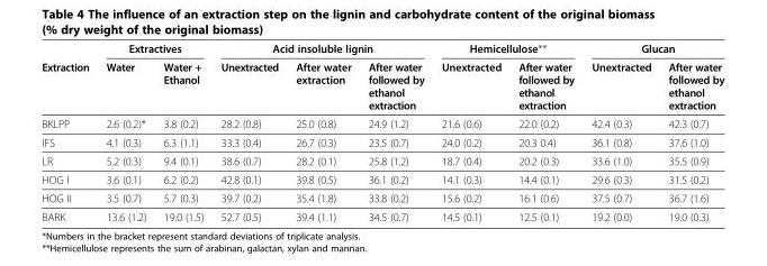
<table><thead><tr><td rowspan="2">Extraction</td><td colspan="2">Extractives</td><td colspan="3">Acid insoluble lignin</td><td colspan="2">Hemicellulose**</td><td colspan="2">Glucan</td></tr><tr><td>Water</td><td>Water + Ethanol</td><td>Unextracted</td><td>After water extraction</td><td>After water followed by ethanol extraction</td><td>Unextracted</td><td>After water followed by ethanol extraction</td><td>Unextracted</td><td>After water followed by ethanol extraction</td></tr></thead><tbody><tr><td>BKLPP</td><td>2.6 (0.2)*</td><td>3.8 (0.2)</td><td>28.2 (0.8)</td><td>25.0 (0.8)</td><td>24.9 (1.2)</td><td>21.6 (0.6)</td><td>22.0 (0.2)</td><td>42.4 (0.3)</td><td>42.3 (0.7)</td></tr><tr><td>IFS</td><td>4.1 (0.3)</td><td>6.3 (1.1)</td><td>33.3 (0.4)</td><td>26.7 (0.3)</td><td>23.5 (0.7)</td><td>24.0 (0.2)</td><td>20.3 0.4)</td><td>36.1 (0.8)</td><td>37.6 (1.0)</td></tr><tr><td>LR</td><td>5.2 (0.3)</td><td>9.4 (0.1)</td><td>38.6 (0.7)</td><td>28.2 (0.1)</td><td>25.8 (1.2)</td><td>18.7 (0.4)</td><td>20.2 (0.3)</td><td>33.6 (1.0)</td><td>35.5 (0.9)</td></tr><tr><td>HOG I</td><td>3.6 (0.1)</td><td>6.2 (0.2)</td><td>42.8 (0.1)</td><td>39.8 (0.5)</td><td>36.1 (0.2)</td><td>14.1 (0.3)</td><td>14.4 (0.1)</td><td>29.6 (0.3)</td><td>31.5 (0.2)</td></tr><tr><td>HOG II</td><td>3.5 (0.7)</td><td>5.7 (0.3)</td><td>39.7 (0.2)</td><td>35.4 (1.8)</td><td>33.8 (0.2)</td><td>15.6 (0.2)</td><td>16.1 (0.6)</td><td>37.5 (0.7)</td><td>36.7 (1.6)</td></tr><tr><td>BARK</td><td>13.6 (1.2)</td><td>19.0 (1.5)</td><td>52.7 (0.5)</td><td>39.4 (1.1)</td><td>34.5 (0.7)</td><td>14.5 (0.1)</td><td>12.5 (0.1)</td><td>19.2 (0.0)</td><td>19.0 (0.3)</td></tr></tbody></table>